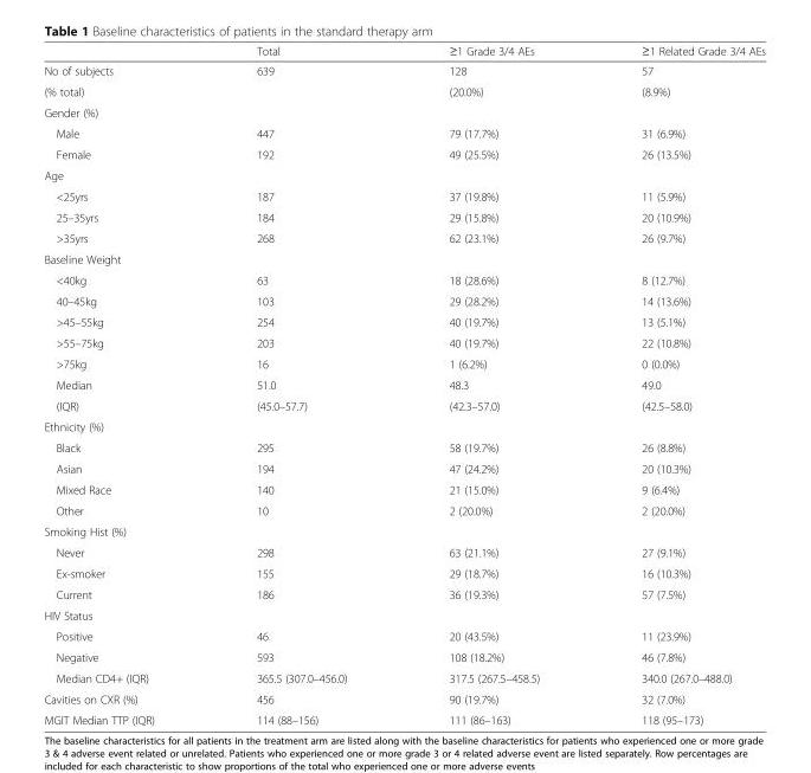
<table><thead><tr><td></td><td>Total</td><td>≥1 Grade 3/4 AEs</td><td>≥1 Related Grade 3/4 AEs</td></tr></thead><tbody><tr><td>No of subjects</td><td>639</td><td>128</td><td>57</td></tr><tr><td>(% total)</td><td></td><td>(20.0%)</td><td>(8.9%)</td></tr><tr><td colspan="4">Gender (%)</td></tr><tr><td>Male</td><td>447</td><td>79 (17.7%)</td><td>31 (6.9%)</td></tr><tr><td>Female</td><td>192</td><td>49 (25.5%)</td><td>26 (13.5%)</td></tr><tr><td colspan="4">Age</td></tr><tr><td>&lt;25yrs</td><td>187</td><td>37 (19.8%)</td><td>11 (5.9%)</td></tr><tr><td>25–35yrs</td><td>184</td><td>29 (15.8%)</td><td>20 (10.9%)</td></tr><tr><td>&gt;35yrs</td><td>268</td><td>62 (23.1%)</td><td>26 (9.7%)</td></tr><tr><td colspan="4">Baseline Weight</td></tr><tr><td>&lt;40kg</td><td>63</td><td>18 (28.6%)</td><td>8 (12.7%)</td></tr><tr><td>40–45kg</td><td>103</td><td>29 (28.2%)</td><td>14 (13.6%)</td></tr><tr><td>&gt;45–55kg</td><td>254</td><td>40 (19.7%)</td><td>13 (5.1%)</td></tr><tr><td>&gt;55–75kg</td><td>203</td><td>40 (19.7%)</td><td>22 (10.8%)</td></tr><tr><td>&gt;75kg</td><td>16</td><td>1 (6.2%)</td><td>0 (0.0%)</td></tr><tr><td>Median</td><td>51.0</td><td>48.3</td><td>49.0</td></tr><tr><td>(IQR)</td><td>(45.0–57.7)</td><td>(42.3–57.0)</td><td>(42.5–58.0)</td></tr><tr><td colspan="4">Ethnicity (%)</td></tr><tr><td>Black</td><td>295</td><td>58 (19.7%)</td><td>26 (8.8%)</td></tr><tr><td>Asian</td><td>194</td><td>47 (24.2%)</td><td>20 (10.3%)</td></tr><tr><td>Mixed Race</td><td>140</td><td>21 (15.0%)</td><td>9 (6.4%)</td></tr><tr><td>Other</td><td>10</td><td>2 (20.0%)</td><td>2 (20.0%)</td></tr><tr><td colspan="4">Smoking Hist (%)</td></tr><tr><td>Never</td><td>298</td><td>63 (21.1%)</td><td>27 (9.1%)</td></tr><tr><td>Ex-smoker</td><td>155</td><td>29 (18.7%)</td><td>16 (10.3%)</td></tr><tr><td>Current</td><td>186</td><td>36 (19.3%)</td><td>57 (7.5%)</td></tr><tr><td colspan="4">HIV Status</td></tr><tr><td>Positive</td><td>46</td><td>20 (43.5%)</td><td>11 (23.9%)</td></tr><tr><td>Negative</td><td>593</td><td>108 (18.2%)</td><td>46 (7.8%)</td></tr><tr><td>Median CD4+ (IQR)</td><td>365.5 (307.0–456.0)</td><td>317.5 (267.5–458.5)</td><td>340.0 (267.0–488.0)</td></tr><tr><td>Cavities on CXR (%)</td><td>456</td><td>90 (19.7%)</td><td>32 (7.0%)</td></tr><tr><td>MGIT Median TTP (IQR)</td><td>114 (88–156)</td><td>111 (86–163)</td><td>118 (95–173)</td></tr></tbody></table>